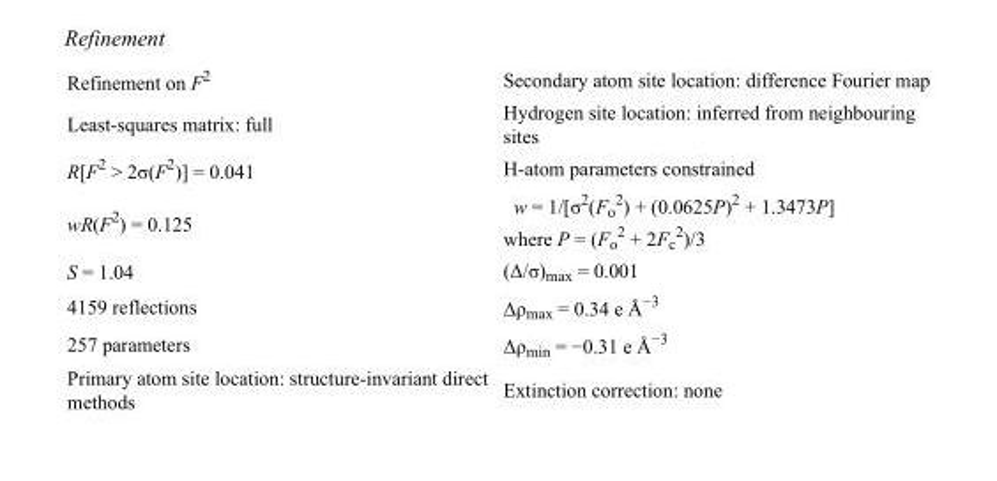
<table><tbody><tr><td>Refinement on F<sup>2</sup></td><td>Secondary atom site location: difference Fourier map</td></tr><tr><td>Least-squares matrix: full</td><td>Hydrogen site location: inferred from neighbouring sites</td></tr><tr><td>R[F<sup>2</sup> &gt; 2σ(F<sup>2</sup>)] = 0.041</td><td>H-atom parameters constrained</td></tr><tr><td>wR(F<sup>2</sup>) = 0.125</td><td>w = 1/[σ<sup>2</sup>(F<sub>o</sub> <sup>2</sup>) + (0.0625P)<sup>2</sup> + 1.3473P] where P = (F<sub>o</sub> <sup>2</sup> + 2F<sub>c</sub> <sup>2</sup>)/3</td></tr><tr><td>S = 1.04</td><td>(Δ/σ)<sub>max</sub> = 0.001</td></tr><tr><td>4159 reflections</td><td>Δρ<sub>max</sub> = 0.34 e Å<sup>−3</sup></td></tr><tr><td>257 parameters</td><td>Δρ<sub>min</sub> = −0.31 e Å<sup>−3</sup></td></tr><tr><td>Primary atom site location: structure-invariant direct methods</td><td>Extinction correction: none</td></tr></tbody></table>